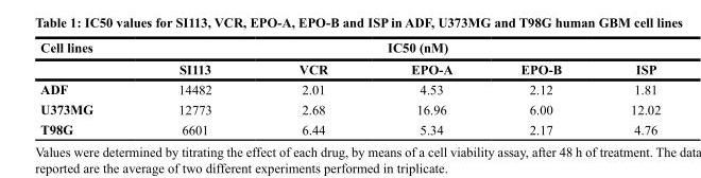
<table><thead><tr><td rowspan="2">Cell lines</td><td colspan="5">IC50 (nM)</td></tr><tr><td>SI113</td><td>VCR</td><td>EPO-A</td><td>EPO-B</td><td>ISP</td></tr></thead><tbody><tr><td>ADF</td><td>14482</td><td>2.01</td><td>4.53</td><td>2.12</td><td>1.81</td></tr><tr><td>U373MG</td><td>12773</td><td>2.68</td><td>16.96</td><td>6.00</td><td>12.02</td></tr><tr><td>T98G</td><td>6601</td><td>6.44</td><td>5.34</td><td>2.17</td><td>4.76</td></tr></tbody></table>